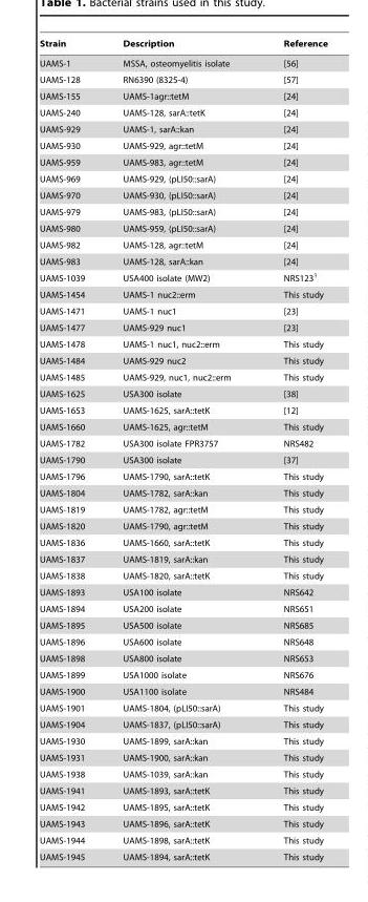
<table><thead><tr><td>Strain</td><td>Description</td><td>Reference</td></tr></thead><tbody><tr><td>UAMS-1</td><td>MSSA, osteomyelitis isolate</td><td>[56]</td></tr><tr><td>UAMS-128</td><td>RN6390 (8325-4)</td><td>[57]</td></tr><tr><td>UAMS-155</td><td>UAMS-1agr::tetM</td><td>[24]</td></tr><tr><td>UAMS-240</td><td>UAMS-128, sarA::tetK</td><td>[24]</td></tr><tr><td>UAMS-929</td><td>UAMS-1, sarA::kan</td><td>[24]</td></tr><tr><td>UAMS-930</td><td>UAMS-929, agr::tetM</td><td>[24]</td></tr><tr><td>UAMS-959</td><td>UAMS-983, agr::tetM</td><td>[24]</td></tr><tr><td>UAMS-969</td><td>UAMS-929, (pLI50::sarA)</td><td>[24]</td></tr><tr><td>UAMS-970</td><td>UAMS-930, (pLI50::sarA)</td><td>[24]</td></tr><tr><td>UAMS-979</td><td>UAMS-983, (pLI50::sarA)</td><td>[24]</td></tr><tr><td>UAMS-980</td><td>UAMS-959, (pLI50::sarA)</td><td>[24]</td></tr><tr><td>UAMS-982</td><td>UAMS-128, agr::tetM</td><td>[24]</td></tr><tr><td>UAMS-983</td><td>UAMS-128, sarA::kan</td><td>[24]</td></tr><tr><td>UAMS-1039</td><td>USA400 isolate (MW2)</td><td>NRS123<sup>1</sup></td></tr><tr><td>UAMS-1454</td><td>UAMS-1 nuc2::erm</td><td>This study</td></tr><tr><td>UAMS-1471</td><td>UAMS-1 nuc1</td><td>[23]</td></tr><tr><td>UAMS-1477</td><td>UAMS-929 nuc1</td><td>[23]</td></tr><tr><td>UAMS-1478</td><td>UAMS-1 nuc1, nuc2::erm</td><td>This study</td></tr><tr><td>UAMS-1484</td><td>UAMS-929 nuc2</td><td>This study</td></tr><tr><td>UAMS-1485</td><td>UAMS-929, nuc1, nuc2::erm</td><td>This study</td></tr><tr><td>UAMS-1625</td><td>USA300 isolate</td><td>[38]</td></tr><tr><td>UAMS-1653</td><td>UAMS-1625, sarA::tetK</td><td>[12]</td></tr><tr><td>UAMS-1660</td><td>UAMS-1625, agr::tetM</td><td>This study</td></tr><tr><td>UAMS-1782</td><td>USA300 isolate FPR3757</td><td>NRS482</td></tr><tr><td>UAMS-1790</td><td>USA300 isolate</td><td>[37]</td></tr><tr><td>UAMS-1796</td><td>UAMS-1790, sarA::tetK</td><td>This study</td></tr><tr><td>UAMS-1804</td><td>UAMS-1782, sarA::kan</td><td>This study</td></tr><tr><td>UAMS-1819</td><td>UAMS-1782, agr::tetM</td><td>This study</td></tr><tr><td>UAMS-1820</td><td>UAMS-1790, agr::tetM</td><td>This study</td></tr><tr><td>UAMS-1836</td><td>UAMS-1660, sarA::tetK</td><td>This study</td></tr><tr><td>UAMS-1837</td><td>UAMS-1819, sarA::kan</td><td>This study</td></tr><tr><td>UAMS-1838</td><td>UAMS-1820, sarA::tetK</td><td>This study</td></tr><tr><td>UAMS-1893</td><td>USA100 isolate</td><td>NRS642</td></tr><tr><td>UAMS-1894</td><td>USA200 isolate</td><td>NRS651</td></tr><tr><td>UAMS-1895</td><td>USA500 isolate</td><td>NRS685</td></tr><tr><td>UAMS-1896</td><td>USA600 isolate</td><td>NRS648</td></tr><tr><td>UAMS-1898</td><td>USA800 isolate</td><td>NRS653</td></tr><tr><td>UAMS-1899</td><td>USA1000 isolate</td><td>NRS676</td></tr><tr><td>UAMS-1900</td><td>USA1100 isolate</td><td>NRS484</td></tr><tr><td>UAMS-1901</td><td>UAMS-1804, (pLI50::sarA)</td><td>This study</td></tr><tr><td>UAMS-1904</td><td>UAMS-1837, (pLI50::sarA)</td><td>This study</td></tr><tr><td>UAMS-1930</td><td>UAMS-1899, sarA::kan</td><td>This study</td></tr><tr><td>UAMS-1931</td><td>UAMS-1900, sarA::kan</td><td>This study</td></tr><tr><td>UAMS-1938</td><td>UAMS-1039, sarA::kan</td><td>This study</td></tr><tr><td>UAMS-1941</td><td>UAMS-1893, sarA::tetK</td><td>This study</td></tr><tr><td>UAMS-1942</td><td>UAMS-1895, sarA::tetK</td><td>This study</td></tr><tr><td>UAMS-1943</td><td>UAMS-1896, sarA::tetK</td><td>This study</td></tr><tr><td>UAMS-1944</td><td>UAMS-1898, sarA::tetK</td><td>This study</td></tr><tr><td>UAMS-1945</td><td>UAMS-1894, sarA::tetK</td><td>This study</td></tr></tbody></table>